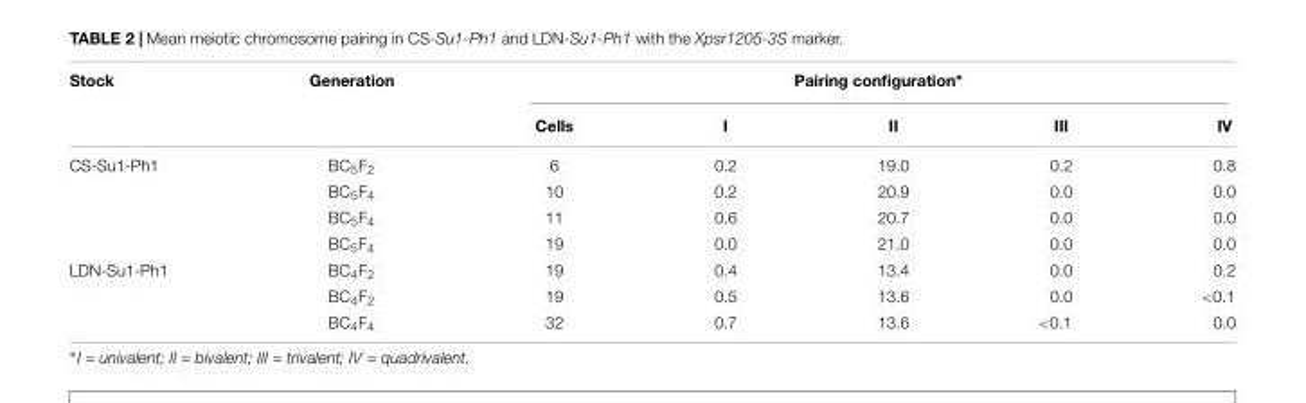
<table><thead><tr><td rowspan="2">Stock</td><td rowspan="2">Generation</td><td colspan="5">Pairing configuration∗</td></tr><tr><td>Cells</td><td>I</td><td>II</td><td>III</td><td>IV</td></tr></thead><tbody><tr><td rowspan="4">CS-Su1-Ph1</td><td>BC<sub>5</sub>F<sub>2</sub></td><td>6</td><td>0.2</td><td>19.0</td><td>0.2</td><td>0.8</td></tr><tr><td>BC<sub>5</sub>F<sub>4</sub></td><td>10</td><td>0.2</td><td>20.9</td><td>0.0</td><td>0.0</td></tr><tr><td>BC<sub>5</sub>F<sub>4</sub></td><td>11</td><td>0.6</td><td>20.7</td><td>0.0</td><td>0.0</td></tr><tr><td>BC<sub>5</sub>F<sub>4</sub></td><td>19</td><td>0.0</td><td>21.0</td><td>0.0</td><td>0.0</td></tr><tr><td rowspan="3">LDN-Su1-Ph1</td><td>BC<sub>4</sub>F<sub>2</sub></td><td>19</td><td>0.4</td><td>13.4</td><td>0.0</td><td>0.2</td></tr><tr><td>BC<sub>4</sub>F<sub>2</sub></td><td>19</td><td>0.5</td><td>13.6</td><td>0.0</td><td>&lt;0.1</td></tr><tr><td>BC<sub>4</sub>F<sub>4</sub></td><td>32</td><td>0.7</td><td>13.6</td><td>&lt;0.1</td><td>0.0</td></tr></tbody></table>